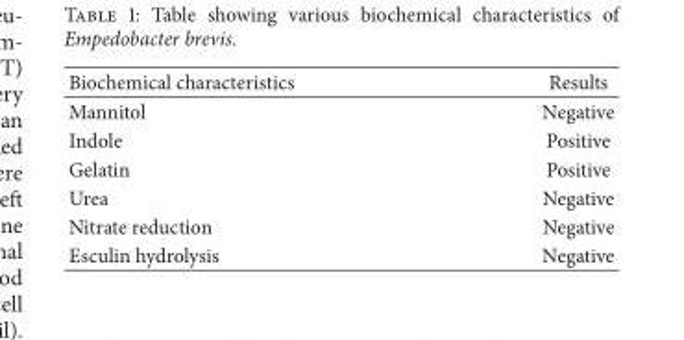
<table><thead><tr><td>Biochemical characteristics</td><td>Results</td></tr></thead><tbody><tr><td>Mannitol</td><td>Negative</td></tr><tr><td>Indole</td><td>Positive</td></tr><tr><td>Gelatin</td><td>Positive</td></tr><tr><td>Urea</td><td>Negative</td></tr><tr><td>Nitrate reduction</td><td>Negative</td></tr><tr><td>Esculin hydrolysis</td><td>Negative</td></tr></tbody></table>